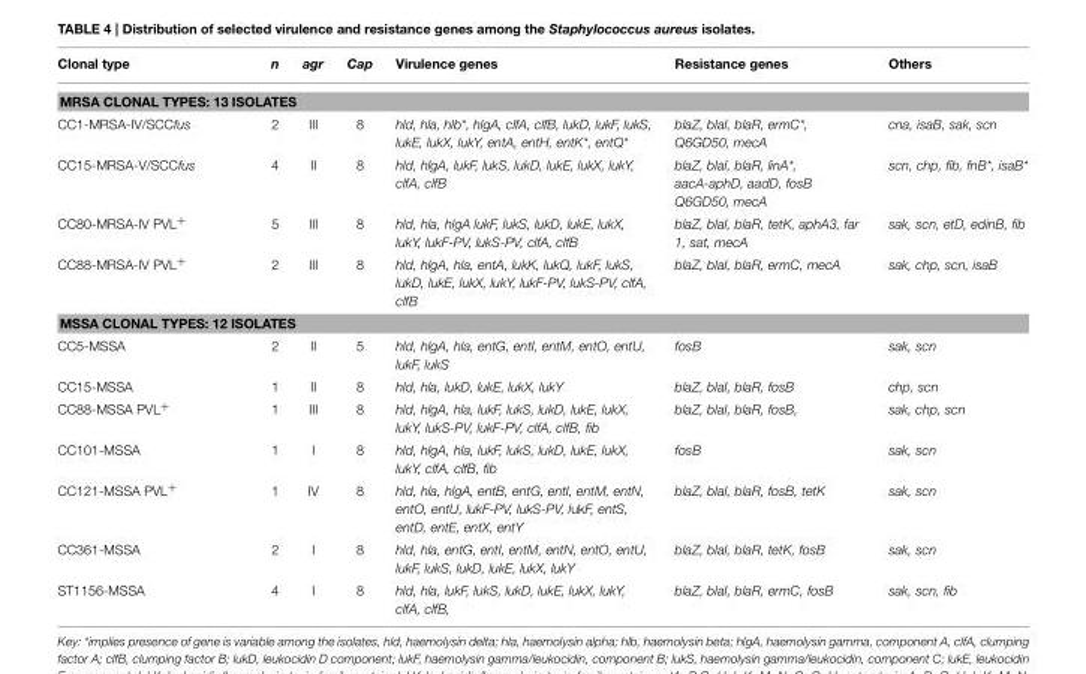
<table><thead><tr><td>Clonal type</td><td>n</td><td>agr</td><td>Cap</td><td>Virulence genes</td><td>Resistance genes</td><td>Others</td></tr></thead><tbody><tr><td colspan="7">MRSA CLONAL TYPES: 13 ISOLATES</td></tr><tr><td>CC1-MRSA-IV/SCCfus</td><td>2</td><td>III</td><td>8</td><td>hld, hla, hlb*, hlgA, clfA, clfB, lukD, lukF, lukS, lukE, lukX, lukY, entA, entH, entK*, entQ*</td><td>blaZ, blaI, blaR, ermC*, Q6GD50, mecA</td><td>cna, isaB, sak, scn</td></tr><tr><td>CC15-MRSA-V/SCCfus</td><td>4</td><td>II</td><td>8</td><td>hld, hlgA, lukF, lukS, lukD, lukE, lukX, lukY, clfA, clfB</td><td>blaZ, blaI, blaR, linA*, aacA-aphD, aadD, fosB Q6GD50, mecA</td><td>scn, chp, fib, fnB*, isaB*</td></tr><tr><td>CC80-MRSA-IV PVL<sup>+</sup></td><td>5</td><td>III</td><td>8</td><td>hld, hla, hlgA lukF, lukS, lukD, lukE, lukX, lukY, lukF-PV, lukS-PV, clfA, clfB</td><td>blaZ, blaI, blaR, tetK, aphA3, far 1, sat, mecA</td><td>sak, scn, etD, edinB, fib</td></tr><tr><td>CC88-MRSA-IV PVL<sup>+</sup></td><td>2</td><td>III</td><td>8</td><td>hld, hlgA, hla, entA, lukK, lukQ, lukF, lukS, lukD, lukE, lukX, lukY, lukF-PV, lukS-PV, clfA, clfB</td><td>blaZ, blaI, blaR, ermC, mecA</td><td>sak, chp, scn, isaB</td></tr><tr><td colspan="7">MSSA CLONAL TYPES: 12 ISOLATES</td></tr><tr><td>CC5-MSSA</td><td>2</td><td>II</td><td>5</td><td>hld, hlgA, hla, entG, entI, entM, entO, entU, lukF, lukS</td><td>fosB</td><td>sak, scn</td></tr><tr><td>CC15-MSSA</td><td>1</td><td>II</td><td>8</td><td>hld, hla, lukD, lukE, lukX, lukY</td><td>blaZ, blaI, blaR, fosB</td><td>chp, scn</td></tr><tr><td>CC88-MSSA PVL<sup>+</sup></td><td>1</td><td>III</td><td>8</td><td>hld, hlgA, hla, lukF, lukS, lukD, lukE, lukX, lukY, lukS-PV, lukF-PV, clfA, clfB, fib</td><td>blaZ, blaI, blaR, fosB,</td><td>sak, chp, scn</td></tr><tr><td>CC101-MSSA</td><td>1</td><td>I</td><td>8</td><td>hld, hlgA, hla, lukF, lukS, lukD, lukE, lukX, lukY, clfA, clfB, fib</td><td>fosB</td><td>sak, scn</td></tr><tr><td>CC121-MSSA PVL<sup>+</sup></td><td>1</td><td>IV</td><td>8</td><td>hld, hla, hlgA, entB, entG, entI, entM, entN, entO, entU, lukF-PV, lukS-PV, lukF, entS, entD, entE, entX, entY</td><td>blaZ, blaI, blaR, fosB, tetK</td><td>sak, scn</td></tr><tr><td>CC361-MSSA</td><td>2</td><td>I</td><td>8</td><td>hld, hla, entG, entI, entM, entN, entO, entU, lukF, lukS, lukD, lukE, lukX, lukY</td><td>blaZ, blaI, blaR, tetK, fosB</td><td>sak, scn</td></tr><tr><td>ST1156-MSSA</td><td>4</td><td>I</td><td>8</td><td>hld, hla, lukF, lukS, lukD, lukE, lukX, lukY, clfA, clfB,</td><td>blaZ, blaI, blaR, ermC, fosB</td><td>sak, scn, fib</td></tr></tbody></table>